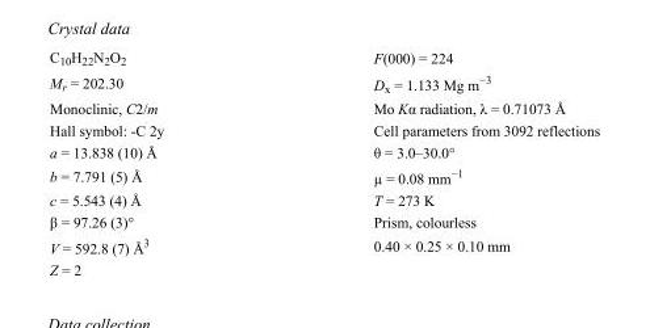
<table><tbody><tr><td>C<sub>10</sub>H<sub>22</sub>N<sub>2</sub>O<sub>2</sub></td><td>F(000) = 224</td></tr><tr><td>M<sub>r</sub> = 202.30</td><td>D<sub>x</sub> = 1.133 Mg m<sup>−3</sup></td></tr><tr><td>Monoclinic, C2/m</td><td>Mo Kα radiation, λ = 0.71073 Å</td></tr><tr><td>Hall symbol: -C 2y</td><td>Cell parameters from 3092 reflections</td></tr><tr><td>a = 13.838 (10) Å</td><td>θ = 3.0–30.0°</td></tr><tr><td>b = 7.791 (5) Å</td><td>µ = 0.08 mm<sup>−1</sup></td></tr><tr><td>c = 5.543 (4) Å</td><td>T = 273 K</td></tr><tr><td>β = 97.26 (3)°</td><td>Prism, colourless</td></tr><tr><td>V = 592.8 (7) Å<sup>3</sup></td><td>0.40 × 0.25 × 0.10 mm</td></tr><tr><td>Z = 2</td><td></td></tr></tbody></table>